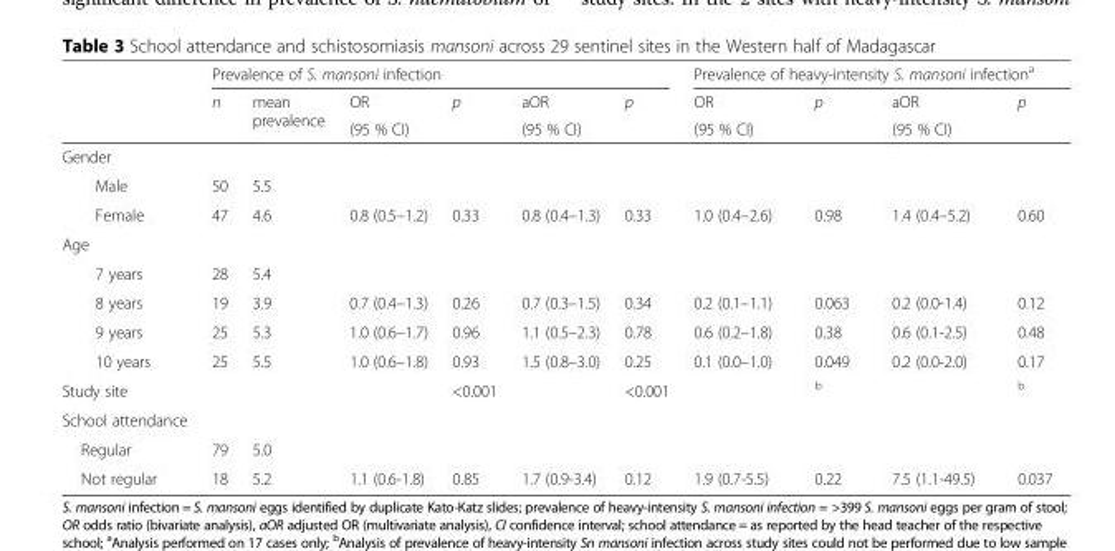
<table><thead><tr><td rowspan="3"></td><td colspan="6">Prevalence of S. mansoni infection</td><td colspan="4">Prevalence of heavy-intensity S. mansoni infection<sup>a</sup></td></tr><tr><td rowspan="2">n</td><td rowspan="2">mean prevalence</td><td rowspan="2">OR (95 % CI)</td><td rowspan="2">p</td><td rowspan="2">aOR (95 % CI)</td><td rowspan="2">p</td><td rowspan="2">OR (95 % CI)</td><td rowspan="2">p</td><td rowspan="2">aOR (95 % CI)</td><td rowspan="2">p</td></tr><tr></tr></thead><tbody><tr><td colspan="11">Gender</td></tr><tr><td>Male</td><td>50</td><td>5.5</td><td></td><td></td><td></td><td></td><td></td><td></td><td></td><td></td></tr><tr><td>Female</td><td>47</td><td>4.6</td><td>0.8 (0.5–1.2)</td><td>0.33</td><td>0.8 (0.4–1.3)</td><td>0.33</td><td>1.0 (0.4–2.6)</td><td>0.98</td><td>1.4 (0.4–5.2)</td><td>0.60</td></tr><tr><td colspan="11">Age</td></tr><tr><td>7 years</td><td>28</td><td>5.4</td><td></td><td></td><td></td><td></td><td></td><td></td><td></td><td></td></tr><tr><td>8 years</td><td>19</td><td>3.9</td><td>0.7 (0.4–1.3)</td><td>0.26</td><td>0.7 (0.3–1.5)</td><td>0.34</td><td>0.2 (0.1–1.1)</td><td>0.063</td><td>0.2 (0.0-1.4)</td><td>0.12</td></tr><tr><td>9 years</td><td>25</td><td>5.3</td><td>1.0 (0.6–1.7)</td><td>0.96</td><td>1.1 (0.5–2.3)</td><td>0.78</td><td>0.6 (0.2–1.8)</td><td>0.38</td><td>0.6 (0.1-2.5)</td><td>0.48</td></tr><tr><td>10 years</td><td>25</td><td>5.5</td><td>1.0 (0.6–1.8)</td><td>0.93</td><td>1.5 (0.8–3.0)</td><td>0.25</td><td>0.1 (0.0–1.0)</td><td>0.049</td><td>0.2 (0.0-2.0)</td><td>0.17</td></tr><tr><td>Study site</td><td></td><td></td><td></td><td>&lt;0.001</td><td></td><td>&lt;0.001</td><td></td><td><sup>b</sup></td><td></td><td><sup>b</sup></td></tr><tr><td colspan="11">School attendance</td></tr><tr><td>Regular</td><td>79</td><td>5.0</td><td></td><td></td><td></td><td></td><td></td><td></td><td></td><td></td></tr><tr><td>Not regular</td><td>18</td><td>5.2</td><td>1.1 (0.6-1.8)</td><td>0.85</td><td>1.7 (0.9-3.4)</td><td>0.12</td><td>1.9 (0.7-5.5)</td><td>0.22</td><td>7.5 (1.1-49.5)</td><td>0.037</td></tr></tbody></table>